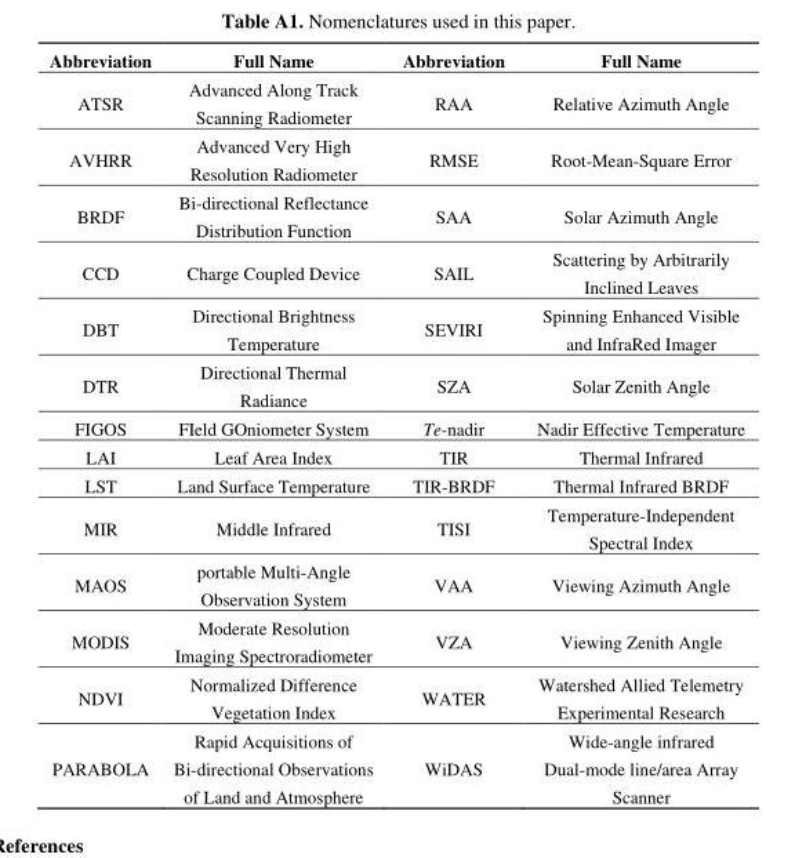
<table><thead><tr><td>Abbreviation</td><td>Full Name</td><td>Abbreviation</td><td>Full Name</td></tr></thead><tbody><tr><td>ATSR</td><td>Advanced Along Track Scanning Radiometer</td><td>RAA</td><td>Relative Azimuth Angle</td></tr><tr><td>AVHRR</td><td>Advanced Very High Resolution Radiometer</td><td>RMSE</td><td>Root-Mean-Square Error</td></tr><tr><td>BRDF</td><td>Bi-directional Reflectance Distribution Function</td><td>SAA</td><td>Solar Azimuth Angle</td></tr><tr><td>CCD</td><td>Charge Coupled Device</td><td>SAIL</td><td>Scattering by Arbitrarily Inclined Leaves</td></tr><tr><td>DBT</td><td>Directional Brightness Temperature</td><td>SEVIRI</td><td>Spinning Enhanced Visible and InfraRed Imager</td></tr><tr><td>DTR</td><td>Directional Thermal Radiance</td><td>SZA</td><td>Solar Zenith Angle</td></tr><tr><td>FIGOS</td><td>FIeld GOniometer System</td><td>Te-nadir</td><td>Nadir Effective Temperature</td></tr><tr><td>LAI</td><td>Leaf Area Index</td><td>TIR</td><td>Thermal Infrared</td></tr><tr><td>LST</td><td>Land Surface Temperature</td><td>TIR-BRDF</td><td>Thermal Infrared BRDF</td></tr><tr><td>MIR</td><td>Middle Infrared</td><td>TISI</td><td>Temperature-Independent Spectral Index</td></tr><tr><td>MAOS</td><td>portable Multi-Angle Observation System</td><td>VAA</td><td>Viewing Azimuth Angle</td></tr><tr><td>MODIS</td><td>Moderate Resolution Imaging Spectroradiometer</td><td>VZA</td><td>Viewing Zenith Angle</td></tr><tr><td>NDVI</td><td>Normalized Difference Vegetation Index</td><td>WATER</td><td>Watershed Allied Telemetry Experimental Research</td></tr><tr><td>PARABOLA</td><td>Rapid Acquisitions of Bi-directional Observations of Land and Atmosphere</td><td>WiDAS</td><td>Wide-angle infrared Dual-mode line/area Array Scanner</td></tr></tbody></table>